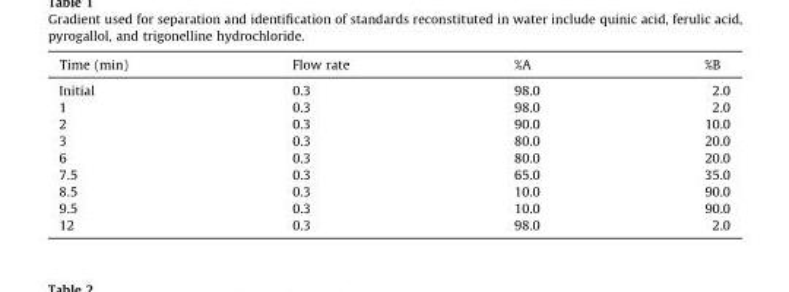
<table><thead><tr><td>Time (min)</td><td>Flow rate</td><td>%A</td><td>%B</td></tr></thead><tbody><tr><td>Initial</td><td>0.3</td><td>98.0</td><td>2.0</td></tr><tr><td>1</td><td>0.3</td><td>98.0</td><td>2.0</td></tr><tr><td>2</td><td>0.3</td><td>90.0</td><td>10.0</td></tr><tr><td>3</td><td>0.3</td><td>80.0</td><td>20.0</td></tr><tr><td>6</td><td>0.3</td><td>80.0</td><td>20.0</td></tr><tr><td>7.5</td><td>0.3</td><td>65.0</td><td>35.0</td></tr><tr><td>8.5</td><td>0.3</td><td>10.0</td><td>90.0</td></tr><tr><td>9.5</td><td>0.3</td><td>10.0</td><td>90.0</td></tr><tr><td>12</td><td>0.3</td><td>98.0</td><td>2.0</td></tr></tbody></table>